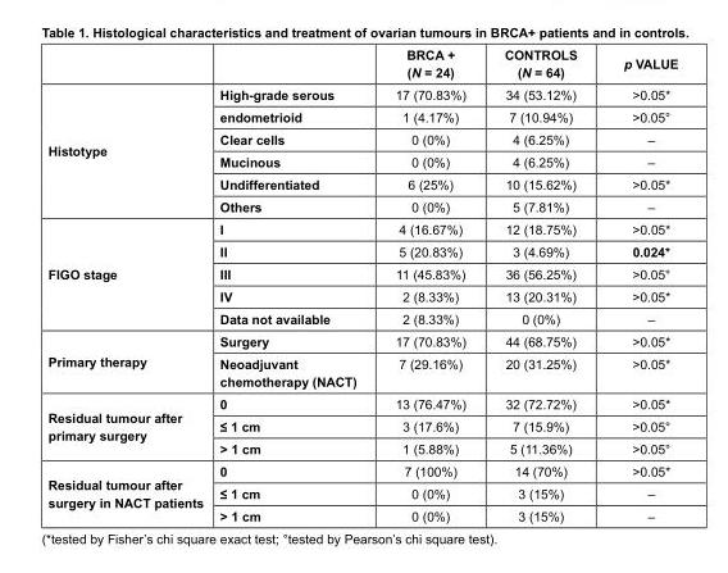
<table><thead><tr><td></td><td></td><td>BRCA + (N = 24)</td><td>CONTROLS (N = 64)</td><td>p VALUE</td></tr></thead><tbody><tr><td rowspan="6">Histotype</td><td>High-grade serous</td><td>17 (70.83%)</td><td>34 (53.12%)</td><td>&gt;0.05*</td></tr><tr><td>endometrioid</td><td>1 (4.17%)</td><td>7 (10.94%)</td><td>&gt;0.05<sup>°</sup></td></tr><tr><td>Clear cells</td><td>0 (0%)</td><td>4 (6.25%)</td><td>–</td></tr><tr><td>Mucinous</td><td>0 (0%)</td><td>4 (6.25%)</td><td>–</td></tr><tr><td>Undifferentiated</td><td>6 (25%)</td><td>10 (15.62%)</td><td>&gt;0.05*</td></tr><tr><td>Others</td><td>0 (0%)</td><td>5 (7.81%)</td><td>–</td></tr><tr><td rowspan="5">FIGO stage</td><td>I</td><td>4 (16.67%)</td><td>12 (18.75%)</td><td>&gt;0.05*</td></tr><tr><td>II</td><td>5 (20.83%)</td><td>3 (4.69%)</td><td>0.024*</td></tr><tr><td>III</td><td>11 (45.83%)</td><td>36 (56.25%)</td><td>&gt;0.05<sup>°</sup></td></tr><tr><td>IV</td><td>2 (8.33%)</td><td>13 (20.31%)</td><td>&gt;0.05*</td></tr><tr><td>Data not available</td><td>2 (8.33%)</td><td>0 (0%)</td><td>–</td></tr><tr><td rowspan="2">Primary therapy</td><td>Surgery</td><td>17 (70.83%)</td><td>44 (68.75%)</td><td>&gt;0.05*</td></tr><tr><td>Neoadjuvant chemotherapy (NACT)</td><td>7 (29.16%)</td><td>20 (31.25%)</td><td>&gt;0.05*</td></tr><tr><td rowspan="3">Residual tumour after primary surgery</td><td>0</td><td>13 (76.47%)</td><td>32 (72.72%)</td><td>&gt;0.05*</td></tr><tr><td>≤ 1 cm</td><td>3 (17.6%)</td><td>7 (15.9%)</td><td>&gt;0.05<sup>°</sup></td></tr><tr><td>&gt; 1 cm</td><td>1 (5.88%)</td><td>5 (11.36%)</td><td>&gt;0.05<sup>°</sup></td></tr><tr><td rowspan="3">Residual tumour after surgery in NACT patients</td><td>0</td><td>7 (100%)</td><td>14 (70%)</td><td>&gt;0.05*</td></tr><tr><td>≤ 1 cm</td><td>0 (0%)</td><td>3 (15%)</td><td>–</td></tr><tr><td>&gt; 1 cm</td><td>0 (0%)</td><td>3 (15%)</td><td>–</td></tr></tbody></table>